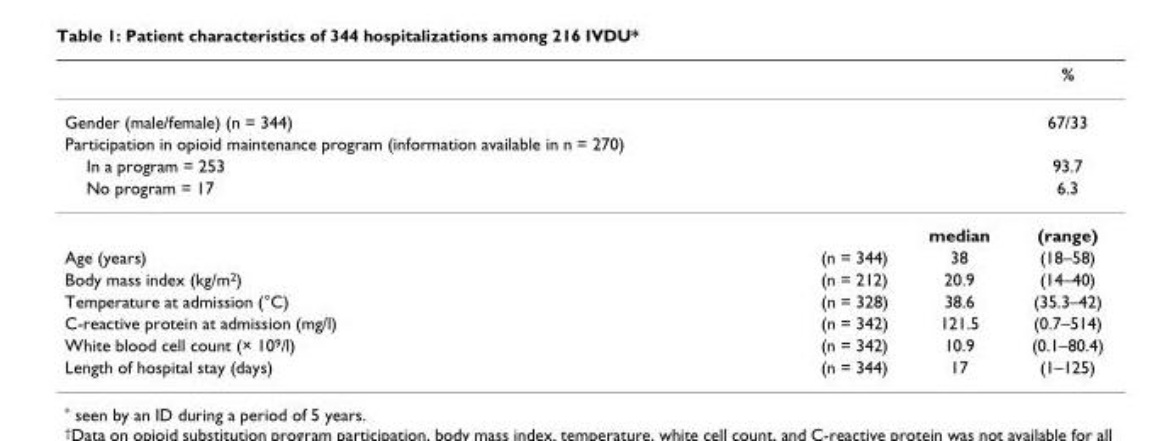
<table><thead><tr><td></td><td></td><td></td><td>%</td></tr></thead><tbody><tr><td>Gender (male/female) (n = 344)</td><td></td><td></td><td>67/33</td></tr><tr><td colspan="4">Participation in opioid maintenance program (information available in n = 270)</td></tr><tr><td>In a program = 253</td><td></td><td></td><td>93.7</td></tr><tr><td rowspan="2">No program = 17</td><td></td><td></td><td>6.3</td></tr><tr><td></td><td>median</td><td>(range)</td></tr><tr><td>Age (years)</td><td>(n = 344)</td><td>38</td><td>(18–58)</td></tr><tr><td>Body mass index (kg/m<sup>2</sup>)</td><td>(n = 212)</td><td>20.9</td><td>(14–40)</td></tr><tr><td>Temperature at admission (°C)</td><td>(n = 328)</td><td>38.6</td><td>(35.3–42)</td></tr><tr><td>C-reactive protein at admission (mg/l)</td><td>(n = 342)</td><td>121.5</td><td>(0.7–514)</td></tr><tr><td>White blood cell count (× 10<sup>9</sup>/l)</td><td>(n = 342)</td><td>10.9</td><td>(0.1–80.4)</td></tr><tr><td>Length of hospital stay (days)</td><td>(n = 344)</td><td>17</td><td>(1–125)</td></tr></tbody></table>